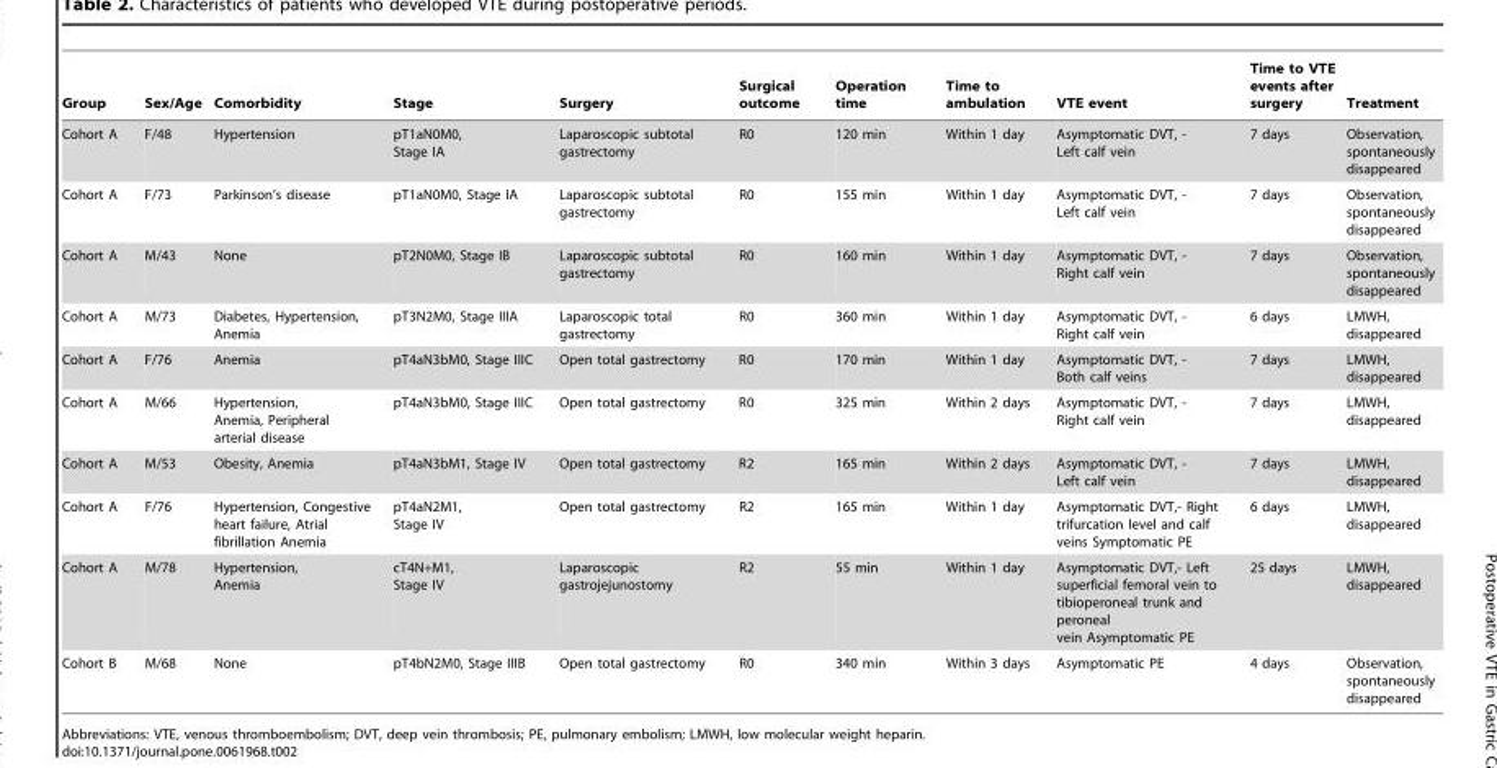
<table><thead><tr><td>Group</td><td>Sex/Age</td><td>Comorbidity</td><td>Stage</td><td>Surgery</td><td>Surgical outcome</td><td>Operation time</td><td>Time to ambulation</td><td>VTE event</td><td>Time to VTE events after surgery</td><td>Treatment</td></tr></thead><tbody><tr><td>Cohort A</td><td>F/48</td><td>Hypertension</td><td>pT1aN0M0, Stage IA</td><td>Laparoscopic subtotal gastrectomy</td><td>R0</td><td>120 min</td><td>Within 1 day</td><td>Asymptomatic DVT, - Left calf vein</td><td>7 days</td><td>Observation, spontaneously disappeared</td></tr><tr><td>Cohort A</td><td>F/73</td><td>Parkinson’s disease</td><td>pT1aN0M0, Stage IA</td><td>Laparoscopic subtotal gastrectomy</td><td>R0</td><td>155 min</td><td>Within 1 day</td><td>Asymptomatic DVT, - Left calf vein</td><td>7 days</td><td>Observation, spontaneously disappeared</td></tr><tr><td>Cohort A</td><td>M/43</td><td>None</td><td>pT2N0M0, Stage IB</td><td>Laparoscopic subtotal gastrectomy</td><td>R0</td><td>160 min</td><td>Within 1 day</td><td>Asymptomatic DVT, - Right calf vein</td><td>7 days</td><td>Observation, spontaneously disappeared</td></tr><tr><td>Cohort A</td><td>M/73</td><td>Diabetes, Hypertension, Anemia</td><td>pT3N2M0, Stage IIIA</td><td>Laparoscopic total gastrectomy</td><td>R0</td><td>360 min</td><td>Within 1 day</td><td>Asymptomatic DVT, - Right calf vein</td><td>6 days</td><td>LMWH, disappeared</td></tr><tr><td>Cohort A</td><td>F/76</td><td>Anemia</td><td>pT4aN3bM0, Stage IIIC</td><td>Open total gastrectomy</td><td>R0</td><td>170 min</td><td>Within 1 day</td><td>Asymptomatic DVT, - Both calf veins</td><td>7 days</td><td>LMWH, disappeared</td></tr><tr><td>Cohort A</td><td>M/66</td><td>Hypertension, Anemia, Peripheral arterial disease</td><td>pT4aN3bM0, Stage IIIC</td><td>Open total gastrectomy</td><td>R0</td><td>325 min</td><td>Within 2 days</td><td>Asymptomatic DVT, - Right calf vein</td><td>7 days</td><td>LMWH, disappeared</td></tr><tr><td>Cohort A</td><td>M/53</td><td>Obesity, Anemia</td><td>pT4aN3bM1, Stage IV</td><td>Open total gastrectomy</td><td>R2</td><td>165 min</td><td>Within 2 days</td><td>Asymptomatic DVT, - Left calf vein</td><td>7 days</td><td>LMWH, disappeared</td></tr><tr><td>Cohort A</td><td>F/76</td><td>Hypertension, Congestive heart failure, Atrial fibrillation Anemia</td><td>pT4aN2M1, Stage IV</td><td>Open total gastrectomy</td><td>R2</td><td>165 min</td><td>Within 1 day</td><td>Asymptomatic DVT,- Right trifurcation level and calf veins Symptomatic PE</td><td>6 days</td><td>LMWH, disappeared</td></tr><tr><td>Cohort A</td><td>M/78</td><td>Hypertension, Anemia</td><td>cT4N+M1, Stage IV</td><td>Laparoscopic gastrojejunostomy</td><td>R2</td><td>55 min</td><td>Within 1 day</td><td>Asymptomatic DVT,- Left superficial femoral vein to tibioperoneal trunk and peroneal vein Asymptomatic PE</td><td>25 days</td><td>LMWH, disappeared</td></tr><tr><td>Cohort B</td><td>M/68</td><td>None</td><td>pT4bN2M0, Stage IIIB</td><td>Open total gastrectomy</td><td>R0</td><td>340 min</td><td>Within 3 days</td><td>Asymptomatic PE</td><td>4 days</td><td>Observation, spontaneously disappeared</td></tr></tbody></table>